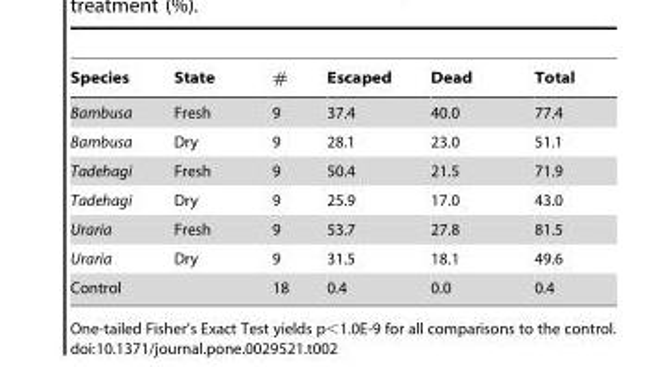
<table><thead><tr><td>Species</td><td>State</td><td>#</td><td>Escaped</td><td>Dead</td><td>Total</td></tr></thead><tbody><tr><td>Bambusa</td><td>Fresh</td><td>9</td><td>37.4</td><td>40.0</td><td>77.4</td></tr><tr><td>Bambusa</td><td>Dry</td><td>9</td><td>28.1</td><td>23.0</td><td>51.1</td></tr><tr><td>Tadehagi</td><td>Fresh</td><td>9</td><td>50.4</td><td>21.5</td><td>71.9</td></tr><tr><td>Tadehagi</td><td>Dry</td><td>9</td><td>25.9</td><td>17.0</td><td>43.0</td></tr><tr><td>Uraria</td><td>Fresh</td><td>9</td><td>53.7</td><td>27.8</td><td>81.5</td></tr><tr><td>Uraria</td><td>Dry</td><td>9</td><td>31.5</td><td>18.1</td><td>49.6</td></tr><tr><td colspan="2">Control</td><td>18</td><td>0.4</td><td>0.0</td><td>0.4</td></tr></tbody></table>